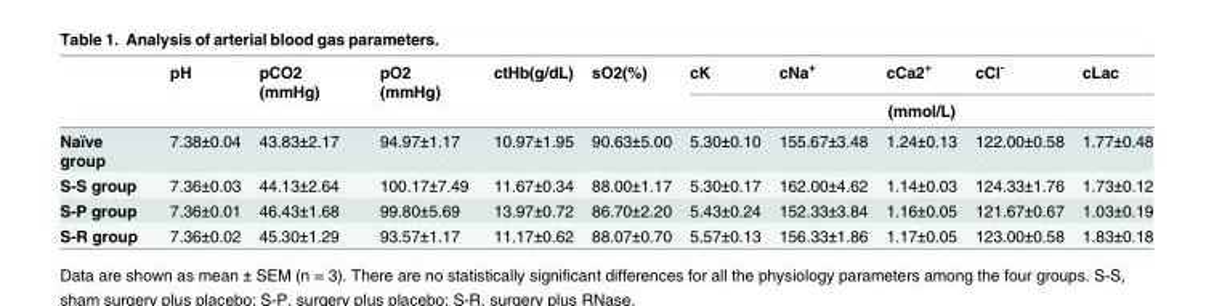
<table><thead><tr><td rowspan="2"></td><td rowspan="2">pH</td><td rowspan="2">pCO2 (mmHg)</td><td rowspan="2">pO2 (mmHg)</td><td rowspan="2">ctHb(g/dL)</td><td rowspan="2">sO2(%)</td><td>cK</td><td>cNa<sup>+</sup></td><td>cCa2<sup>+</sup></td><td>cCl<sup>-</sup></td><td>cLac</td></tr><tr><td colspan="5">(mmol/L)</td></tr></thead><tbody><tr><td>Naïve group</td><td>7.38±0.04</td><td>43.83±2.17</td><td>94.97±1.17</td><td>10.97±1.95</td><td>90.63±5.00</td><td>5.30±0.10</td><td>155.67±3.48</td><td>1.24±0.13</td><td>122.00±0.58</td><td>1.77±0.48</td></tr><tr><td>S-S group</td><td>7.36±0.03</td><td>44.13±2.64</td><td>100.17±7.49</td><td>11.67±0.34</td><td>88.00±1.17</td><td>5.30±0.17</td><td>162.00±4.62</td><td>1.14±0.03</td><td>124.33±1.76</td><td>1.73±0.12</td></tr><tr><td>S-P group</td><td>7.36±0.01</td><td>46.43±1.68</td><td>99.80±5.69</td><td>13.97±0.72</td><td>86.70±2.20</td><td>5.43±0.24</td><td>152.33±3.84</td><td>1.16±0.05</td><td>121.67±0.67</td><td>1.03±0.19</td></tr><tr><td>S-R group</td><td>7.36±0.02</td><td>45.30±1.29</td><td>93.57±1.17</td><td>11.17±0.62</td><td>88.07±0.70</td><td>5.57±0.13</td><td>156.33±1.86</td><td>1.17±0.05</td><td>123.00±0.58</td><td>1.83±0.18</td></tr></tbody></table>